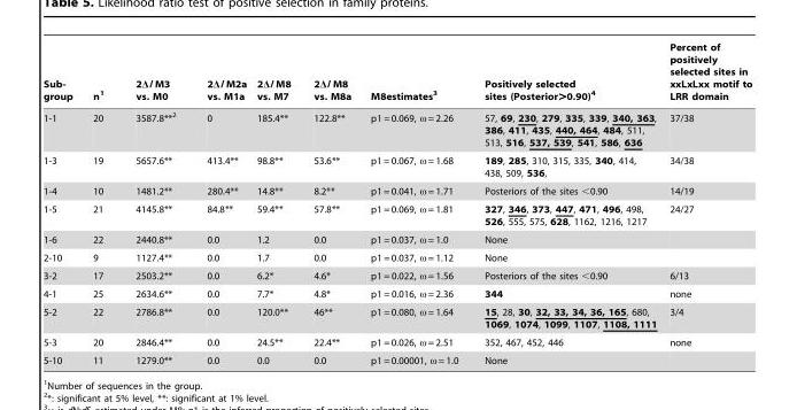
<table><thead><tr><td>Sub- group</td><td>n<sup>1</sup></td><td>2Δl M3 vs. M0</td><td>2Δl M2a vs. M1a</td><td>2Δl M8 vs. M7</td><td>2Δl M8 vs. M8a</td><td>M8estimates<sup>3</sup></td><td>Positively selected sites (Posterior&gt;0.90)<sup>4</sup></td><td>Percent of positively selected sites in xxLxLxx motif to LRR domain</td></tr></thead><tbody><tr><td>1-1</td><td>20</td><td>3587.8**<sup>2</sup></td><td>0</td><td>185.4**</td><td>122.8**</td><td>p1 = 0.069, ω = 2.26</td><td>57, 69, 230, 279, 335, 339, 340, 363, 386, 411, 435, 440, 464, 484, 511, 513, 516, 537, 539, 541, 586, 636</td><td>37/38</td></tr><tr><td>1-3</td><td>19</td><td>5657.6**</td><td>413.4**</td><td>98.8**</td><td>53.6**</td><td>p1 = 0.067, ω = 1.68</td><td>189, 285, 310, 315, 335, 340, 414, 438, 509, 536,</td><td>34/38</td></tr><tr><td>1-4</td><td>10</td><td>1481.2**</td><td>280.4**</td><td>14.8**</td><td>8.2**</td><td>p1 = 0.041, ω = 1.71</td><td>Posteriors of the sites &lt;0.90</td><td>14/19</td></tr><tr><td>1-5</td><td>21</td><td>4145.8**</td><td>84.8**</td><td>59.4**</td><td>57.8**</td><td>p1 = 0.069, ω = 1.81</td><td>327, 346, 373, 447, 471, 496, 498, 526, 555, 575, 628, 1162, 1216, 1217</td><td>24/27</td></tr><tr><td>1-6</td><td>22</td><td>2440.8**</td><td>0.0</td><td>1.2</td><td>0.0</td><td>p1 = 0.037, ω = 1.0</td><td>None</td><td></td></tr><tr><td>2-10</td><td>9</td><td>1127.4**</td><td>0.0</td><td>1.7</td><td>0.0</td><td>p1 = 0.037, ω = 1.12</td><td>None</td><td></td></tr><tr><td>3-2</td><td>17</td><td>2503.2**</td><td>0.0</td><td>6.2*</td><td>4.6*</td><td>p1 = 0.022, ω = 1.56</td><td>Posteriors of the sites &lt;0.90</td><td>6/13</td></tr><tr><td>4-1</td><td>25</td><td>2634.6**</td><td>0.0</td><td>7.7*</td><td>4.8*</td><td>p1 = 0.016, ω = 2.36</td><td>344</td><td>none</td></tr><tr><td>5-2</td><td>22</td><td>2786.8**</td><td>0.0</td><td>120.0**</td><td>46**</td><td>p1 = 0.080, ω = 1.64</td><td>15, 28, 30, 32, 33, 34, 36, 165, 680, 1069, 1074, 1099, 1107, 1108, 1111</td><td>3/4</td></tr><tr><td>5-3</td><td>20</td><td>2846.4**</td><td>0.0</td><td>24.5**</td><td>22.4**</td><td>p1 = 0.026, ω = 2.51</td><td>352, 467, 452, 446</td><td>none</td></tr><tr><td>5-10</td><td>11</td><td>1279.0**</td><td>0.0</td><td>0.0</td><td>0.0</td><td>p1 = 0.00001, ω = 1.0</td><td>None</td><td></td></tr></tbody></table>